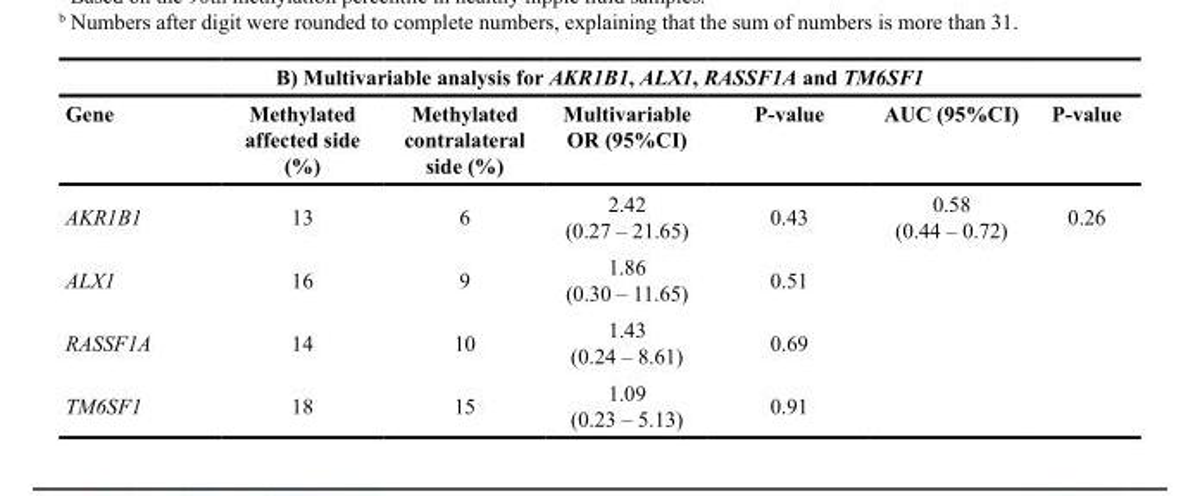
<table><thead><tr><td colspan="7">B) Multivariable analysis for AKR1B1, ALX1, RASSF1A and TM6SF1</td></tr><tr><td>Gene</td><td>Methylated affected side (%)</td><td>Methylated contralateral side (%)</td><td>Multivariable OR (95%CI)</td><td>P-value</td><td>AUC (95%CI)</td><td>P-value</td></tr></thead><tbody><tr><td>AKR1B1</td><td>13</td><td>6</td><td>2.42 (0.27 – 21.65)</td><td>0.43</td><td>0.58 (0.44 – 0.72)</td><td>0.26</td></tr><tr><td>ALX1</td><td>16</td><td>9</td><td>1.86 (0.30 – 11.65)</td><td>0.51</td><td></td><td></td></tr><tr><td>RASSF1A</td><td>14</td><td>10</td><td>1.43 (0.24 – 8.61)</td><td>0.69</td><td></td><td></td></tr><tr><td>TM6SF1</td><td>18</td><td>15</td><td>1.09 (0.23 – 5.13)</td><td>0.91</td><td></td><td></td></tr></tbody></table>